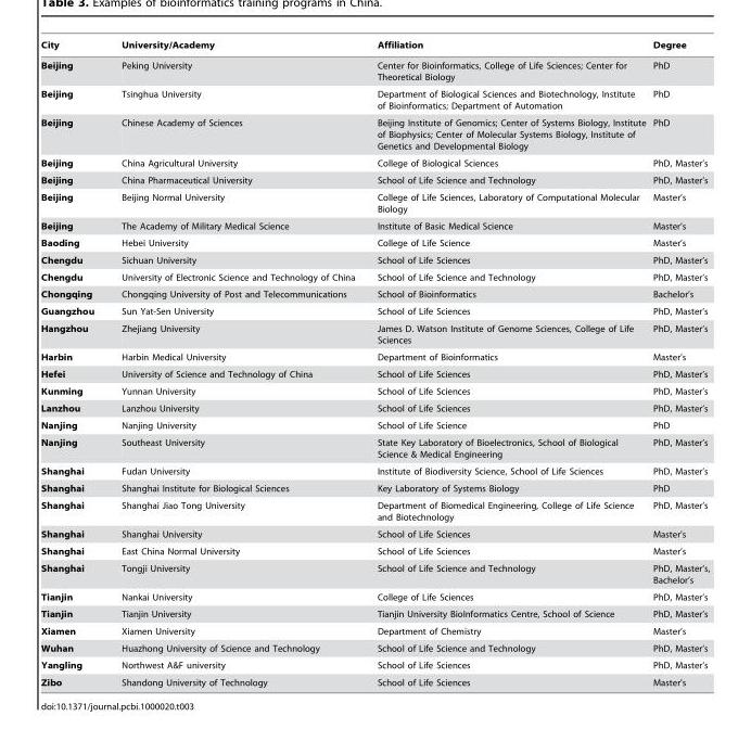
<table><thead><tr><td>City</td><td>University/Academy</td><td>Affiliation</td><td>Degree</td></tr></thead><tbody><tr><td>Beijing</td><td>Peking University</td><td>Center for Bioinformatics, College of Life Sciences; Center for Theoretical Biology</td><td>PhD</td></tr><tr><td>Beijing</td><td>Tsinghua University</td><td>Department of Biological Sciences and Biotechnology, Institute of Bioinformatics; Department of Automation</td><td>PhD</td></tr><tr><td>Beijing</td><td>Chinese Academy of Sciences</td><td>Beijing Institute of Genomics; Center of Systems Biology, Institute of Biophysics; Center of Molecular Systems Biology, Institute of Genetics and Developmental Biology</td><td>PhD</td></tr><tr><td>Beijing</td><td>China Agricultural University</td><td>College of Biological Sciences</td><td>PhD, Master’s</td></tr><tr><td>Beijing</td><td>China Pharmaceutical University</td><td>School of Life Science and Technology</td><td>PhD, Master’s</td></tr><tr><td>Beijing</td><td>Beijing Normal University</td><td>College of Life Sciences, Laboratory of Computational Molecular Biology</td><td>Master’s</td></tr><tr><td>Beijing</td><td>The Academy of Military Medical Science</td><td>Institute of Basic Medical Science</td><td>Master’s</td></tr><tr><td>Baoding</td><td>Hebei University</td><td>College of Life Science</td><td>Master’s</td></tr><tr><td>Chengdu</td><td>Sichuan University</td><td>School of Life Sciences</td><td>PhD, Master’s</td></tr><tr><td>Chengdu</td><td>University of Electronic Science and Technology of China</td><td>School of Life Science and Technology</td><td>PhD, Master’s</td></tr><tr><td>Chongqing</td><td>Chongqing University of Post and Telecommunications</td><td>School of Bioinformatics</td><td>Bachelor’s</td></tr><tr><td>Guangzhou</td><td>Sun Yat-Sen University</td><td>School of Life Sciences</td><td>PhD, Master’s</td></tr><tr><td>Hangzhou</td><td>Zhejiang University</td><td>James D. Watson Institute of Genome Sciences, College of Life Sciences</td><td>PhD, Master’s</td></tr><tr><td>Harbin</td><td>Harbin Medical University</td><td>Department of Bioinformatics</td><td>Master’s</td></tr><tr><td>Hefei</td><td>University of Science and Technology of China</td><td>School of Life Sciences</td><td>PhD, Master’s</td></tr><tr><td>Kunming</td><td>Yunnan University</td><td>School of Life Sciences</td><td>PhD, Master’s</td></tr><tr><td>Lanzhou</td><td>Lanzhou University</td><td>School of Life Sciences</td><td>PhD, Master’s</td></tr><tr><td>Nanjing</td><td>Nanjing University</td><td>School of Life Science</td><td>PhD</td></tr><tr><td>Nanjing</td><td>Southeast University</td><td>State Key Laboratory of Bioelectronics, School of Biological Science &amp; Medical Engineering</td><td>PhD, Master’s</td></tr><tr><td>Shanghai</td><td>Fudan University</td><td>Institute of Biodiversity Science, School of Life Sciences</td><td>PhD, Master’s</td></tr><tr><td>Shanghai</td><td>Shanghai Institute for Biological Sciences</td><td>Key Laboratory of Systems Biology</td><td>PhD</td></tr><tr><td>Shanghai</td><td>Shanghai Jiao Tong University</td><td>Department of Biomedical Engineering, College of Life Science and Biotechnology</td><td>PhD, Master’s</td></tr><tr><td>Shanghai</td><td>Shanghai University</td><td>School of Life Sciences</td><td>Master’s</td></tr><tr><td>Shanghai</td><td>East China Normal University</td><td>School of Life Sciences</td><td>Master’s</td></tr><tr><td>Shanghai</td><td>Tongji University</td><td>School of Life Science and Technology</td><td>PhD, Master’s, Bachelor’s</td></tr><tr><td>Tianjin</td><td>Nankai University</td><td>College of Life Sciences</td><td>PhD, Master’s</td></tr><tr><td>Tianjin</td><td>Tianjin University</td><td>Tianjin University BioInformatics Centre, School of Science</td><td>PhD, Master’s</td></tr><tr><td>Xiamen</td><td>Xiamen University</td><td>Department of Chemistry</td><td>Master’s</td></tr><tr><td>Wuhan</td><td>Huazhong University of Science and Technology</td><td>School of Life Science and Technology</td><td>PhD, Master’s</td></tr><tr><td>Yangling</td><td>Northwest A&amp;F university</td><td>School of Life Sciences</td><td>PhD, Master’s</td></tr><tr><td>Zibo</td><td>Shandong University of Technology</td><td>School of Life Sciences</td><td>Master’s</td></tr></tbody></table>